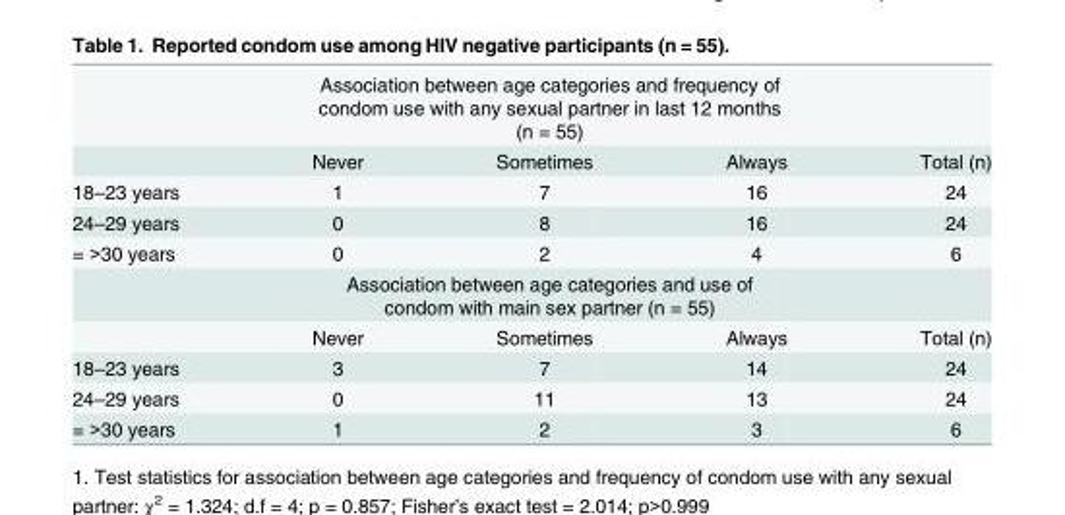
<table><thead><tr><td rowspan="2"></td><td colspan="3">Association between age categories and frequency of condom use with any sexual partner in last 12 months (n = 55)</td><td rowspan="2">Total (n)</td></tr><tr><td>Never</td><td>Sometimes</td><td>Always</td></tr></thead><tbody><tr><td>18–23 years</td><td>1</td><td>7</td><td>16</td><td>24</td></tr><tr><td>24–29 years</td><td>0</td><td>8</td><td>16</td><td>24</td></tr><tr><td rowspan="3">= &gt;30 years</td><td>0</td><td>2</td><td>4</td><td>6</td></tr><tr><td colspan="3">Association between age categories and use of condom with main sex partner (n = 55)</td><td></td></tr><tr><td>Never</td><td>Sometimes</td><td>Always</td><td>Total (n)</td></tr><tr><td>18–23 years</td><td>3</td><td>7</td><td>14</td><td>24</td></tr><tr><td>24–29 years</td><td>0</td><td>11</td><td>13</td><td>24</td></tr><tr><td>= &gt;30 years</td><td>1</td><td>2</td><td>3</td><td>6</td></tr></tbody></table>